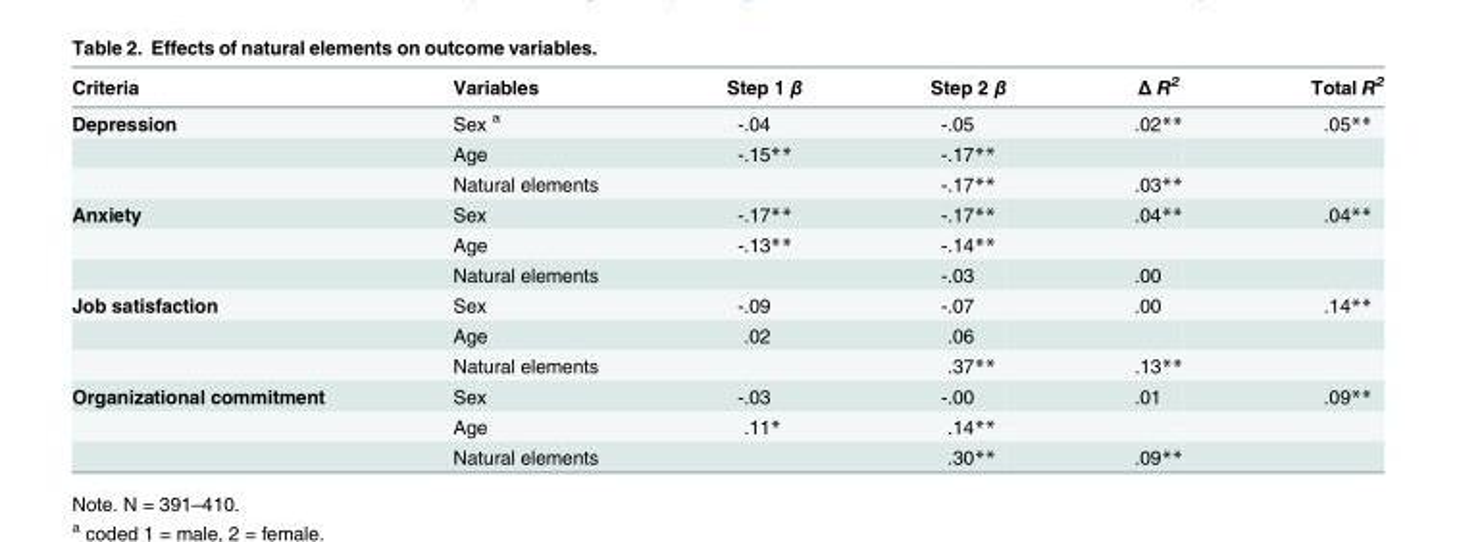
<table><thead><tr><td>Criteria</td><td>Variables</td><td>Step 1 β</td><td>Step 2 β</td><td>Δ R<sup>2</sup></td><td>Total R<sup>2</sup></td></tr></thead><tbody><tr><td rowspan="3">Depression</td><td>Sex <sup>a</sup></td><td>-.04</td><td>-.05</td><td>.02**</td><td>.05**</td></tr><tr><td>Age</td><td>-.15**</td><td>-.17**</td><td></td><td></td></tr><tr><td>Natural elements</td><td></td><td>-.17**</td><td>.03**</td><td></td></tr><tr><td rowspan="3">Anxiety</td><td>Sex</td><td>-.17**</td><td>-.17**</td><td>.04**</td><td>.04**</td></tr><tr><td>Age</td><td>-.13**</td><td>-.14**</td><td></td><td></td></tr><tr><td>Natural elements</td><td></td><td>-.03</td><td>.00</td><td></td></tr><tr><td rowspan="3">Job satisfaction</td><td>Sex</td><td>-.09</td><td>-.07</td><td>.00</td><td>.14**</td></tr><tr><td>Age</td><td>.02</td><td>.06</td><td></td><td></td></tr><tr><td>Natural elements</td><td></td><td>.37**</td><td>.13**</td><td></td></tr><tr><td rowspan="3">Organizational commitment</td><td>Sex</td><td>-.03</td><td>-.00</td><td>.01</td><td>.09**</td></tr><tr><td>Age</td><td>.11*</td><td>.14**</td><td></td><td></td></tr><tr><td>Natural elements</td><td></td><td>.30**</td><td>.09**</td><td></td></tr></tbody></table>